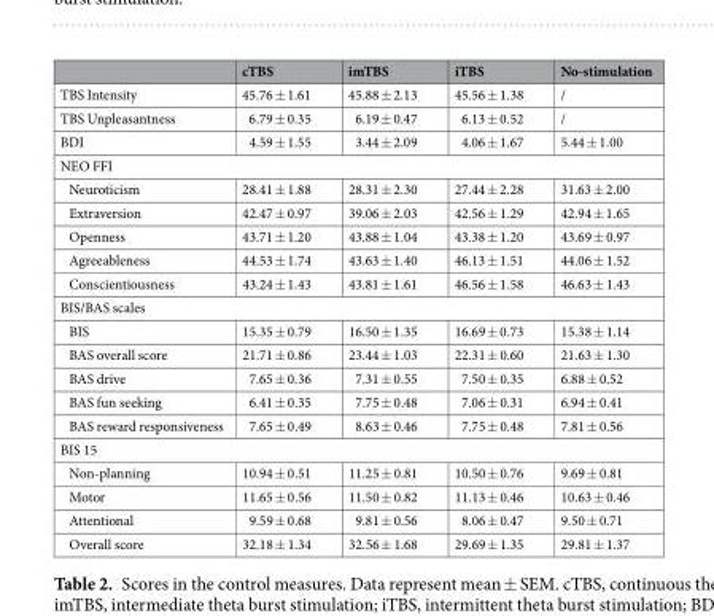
<table><thead><tr><td></td><td>cTBS</td><td>imTBS</td><td>iTBS</td><td>No-stimulation</td></tr></thead><tbody><tr><td>TBS Intensity</td><td>45.76 ± 1.61</td><td>45.88 ± 2.13</td><td>45.56 ± 1.38</td><td>/</td></tr><tr><td>TBS Unpleasantness</td><td>6.79 ± 0.35</td><td>6.19 ± 0.47</td><td>6.13 ± 0.52</td><td>/</td></tr><tr><td>BDI</td><td>4.59 ± 1.55</td><td>3.44 ± 2.09</td><td>4.06 ± 1.67</td><td>5.44 ± 1.00</td></tr><tr><td colspan="5">NEO FFI</td></tr><tr><td>Neuroticism</td><td>28.41 ± 1.88</td><td>28.31 ± 2.30</td><td>27.44 ± 2.28</td><td>31.63 ± 2.00</td></tr><tr><td>Extraversion</td><td>42.47 ± 0.97</td><td>39.06 ± 2.03</td><td>42.56 ± 1.29</td><td>42.94 ± 1.65</td></tr><tr><td>Openness</td><td>43.71 ± 1.20</td><td>43.88 ± 1.04</td><td>43.38 ± 1.20</td><td>43.69 ± 0.97</td></tr><tr><td>Agreeableness</td><td>44.53 ± 1.74</td><td>43.63 ± 1.40</td><td>46.13 ± 1.51</td><td>44.06 ± 1.52</td></tr><tr><td>Conscientiousness</td><td>43.24 ± 1.43</td><td>43.81 ± 1.61</td><td>46.56 ± 1.58</td><td>46.63 ± 1.43</td></tr><tr><td colspan="5">BIS/BAS scales</td></tr><tr><td>BIS</td><td>15.35 ± 0.79</td><td>16.50 ± 1.35</td><td>16.69 ± 0.73</td><td>15.38 ± 1.14</td></tr><tr><td>BAS overall score</td><td>21.71 ± 0.86</td><td>23.44 ± 1.03</td><td>22.31 ± 0.60</td><td>21.63 ± 1.30</td></tr><tr><td>BAS drive</td><td>7.65 ± 0.36</td><td>7.31 ± 0.55</td><td>7.50 ± 0.35</td><td>6.88 ± 0.52</td></tr><tr><td>BAS fun seeking</td><td>6.41 ± 0.35</td><td>7.75 ± 0.48</td><td>7.06 ± 0.31</td><td>6.94 ± 0.41</td></tr><tr><td>BAS reward responsiveness</td><td>7.65 ± 0.49</td><td>8.63 ± 0.46</td><td>7.75 ± 0.48</td><td>7.81 ± 0.56</td></tr><tr><td colspan="5">BIS 15</td></tr><tr><td>Non-planning</td><td>10.94 ± 0.51</td><td>11.25 ± 0.81</td><td>10.50 ± 0.76</td><td>9.69 ± 0.81</td></tr><tr><td>Motor</td><td>11.65 ± 0.56</td><td>11.50 ± 0.82</td><td>11.13 ± 0.46</td><td>10.63 ± 0.46</td></tr><tr><td>Attentional</td><td>9.59 ± 0.68</td><td>9.81 ± 0.56</td><td>8.06 ± 0.47</td><td>9.50 ± 0.71</td></tr><tr><td>Overall score</td><td>32.18 ± 1.34</td><td>32.56 ± 1.68</td><td>29.69 ± 1.35</td><td>29.81 ± 1.37</td></tr></tbody></table>